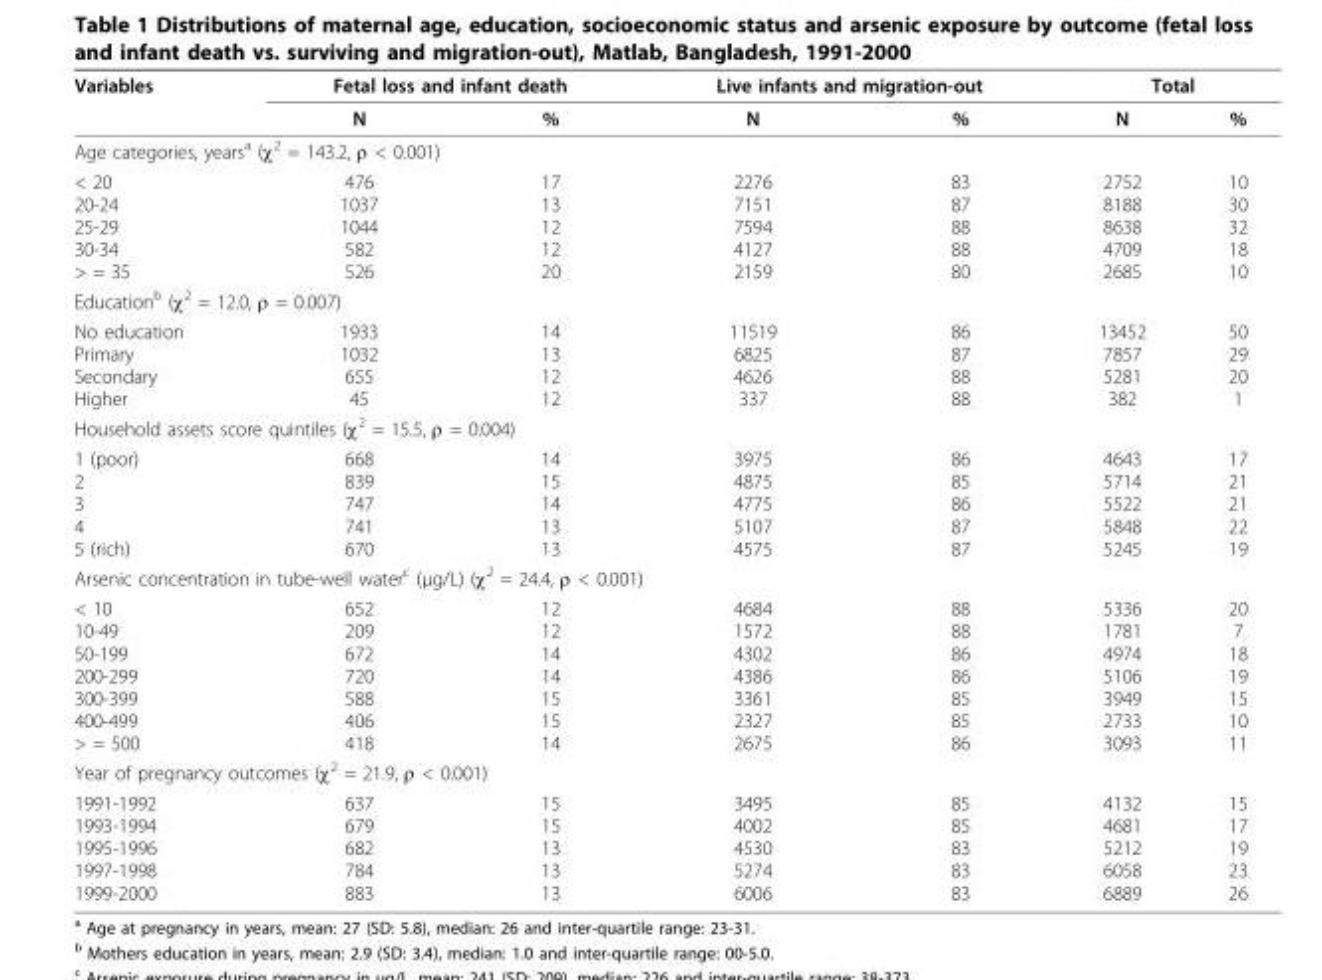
<table><thead><tr><td rowspan="2">Variables</td><td colspan="2">Fetal loss and infant death</td><td colspan="2">Live infants and migration-out</td><td colspan="2">Total</td></tr><tr><td>N</td><td>%</td><td>N</td><td>%</td><td>N</td><td>%</td></tr></thead><tbody><tr><td colspan="7">Age categories, years<sup>a</sup> (χ<sup>2</sup> = 143.2, ρ &lt; 0.001)</td></tr><tr><td>&lt; 20 20-24 25-29 30-34 &gt; = 35</td><td>476 1037 1044 582 526</td><td>17 13 12 12 20</td><td>2276 7151 7594 4127 2159</td><td>83 87 88 88 80</td><td>2752 8188 8638 4709 2685</td><td>10 30 32 18 10</td></tr><tr><td colspan="7">Education<sup>b</sup> (χ<sup>2</sup> = 12.0, ρ = 0.007)</td></tr><tr><td>No education Primary Secondary Higher</td><td>1933 1032 655 45</td><td>14 13 12 12</td><td>11519 6825 4626 337</td><td>86 87 88 88</td><td>13452 7857 5281 382</td><td>50 29 20 1</td></tr><tr><td colspan="7">Household assets score quintiles (χ<sup>2</sup> = 15.5, ρ = 0.004)</td></tr><tr><td>1 (poor) 2 3 4 5 (rich)</td><td>668 839 747 741 670</td><td>14 15 14 13 13</td><td>3975 4875 4775 5107 4575</td><td>86 85 86 87 87</td><td>4643 5714 5522 5848 5245</td><td>17 21 21 22 19</td></tr><tr><td colspan="7">Arsenic concentration in tube-well water<sup>c</sup> (μg/L) (χ<sup>2</sup> = 24.4, ρ &lt; 0.001)</td></tr><tr><td>&lt; 10 10-49 50-199 200-299 300-399 400-499 &gt; = 500</td><td>652 209 672 720 588 406 418</td><td>12 12 14 14 15 15 14</td><td>4684 1572 4302 4386 3361 2327 2675</td><td>88 88 86 86 85 85 86</td><td>5336 1781 4974 5106 3949 2733 3093</td><td>20 7 18 19 15 10 11</td></tr><tr><td colspan="7">Year of pregnancy outcomes (χ<sup>2</sup> = 21.9, ρ &lt; 0.001)</td></tr><tr><td>1991-1992 1993-1994 1995-1996 1997-1998 1999-2000</td><td>637 679 682 784 883</td><td>15 15 13 13 13</td><td>3495 4002 4530 5274 6006</td><td>85 85 83 83 83</td><td>4132 4681 5212 6058 6889</td><td>15 17 19 23 26</td></tr></tbody></table>